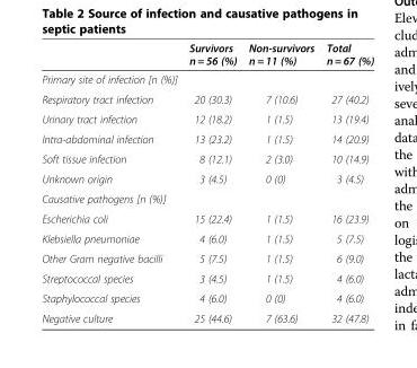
<table><thead><tr><td></td><td>Survivors n = 56 (%)</td><td>Non-survivors n = 11 (%)</td><td>Total n = 67 (%)</td></tr></thead><tbody><tr><td colspan="4">Primary site of infection [n (%)]</td></tr><tr><td>Respiratory tract infection</td><td>20 (30.3)</td><td>7 (10.6)</td><td>27 (40.2)</td></tr><tr><td>Urinary tract infection</td><td>12 (18.2)</td><td>1 (1.5)</td><td>13 (19.4)</td></tr><tr><td>Intra-abdominal infection</td><td>13 (23.2)</td><td>1 (1.5)</td><td>14 (20.9)</td></tr><tr><td>Soft tissue infection</td><td>8 (12.1)</td><td>2 (3.0)</td><td>10 (14.9)</td></tr><tr><td>Unknown origin</td><td>3 (4.5)</td><td>0 (0)</td><td>3 (4.5)</td></tr><tr><td colspan="4">Causative pathogens [n (%)]</td></tr><tr><td>Escherichia coli</td><td>15 (22.4)</td><td>1 (1.5)</td><td>16 (23.9)</td></tr><tr><td>Klebsiella pneumoniae</td><td>4 (6.0)</td><td>1 (1.5)</td><td>5 (7.5)</td></tr><tr><td>Other Gram negative bacilli</td><td>5 (7.5)</td><td>1 (1.5)</td><td>6 (9.0)</td></tr><tr><td>Streptococcal species</td><td>3 (4.5)</td><td>1 (1.5)</td><td>4 (6.0)</td></tr><tr><td>Staphylococcal species</td><td>4 (6.0)</td><td>0 (0)</td><td>4 (6.0)</td></tr><tr><td>Negative culture</td><td>25 (44.6)</td><td>7 (63.6)</td><td>32 (47.8)</td></tr></tbody></table>